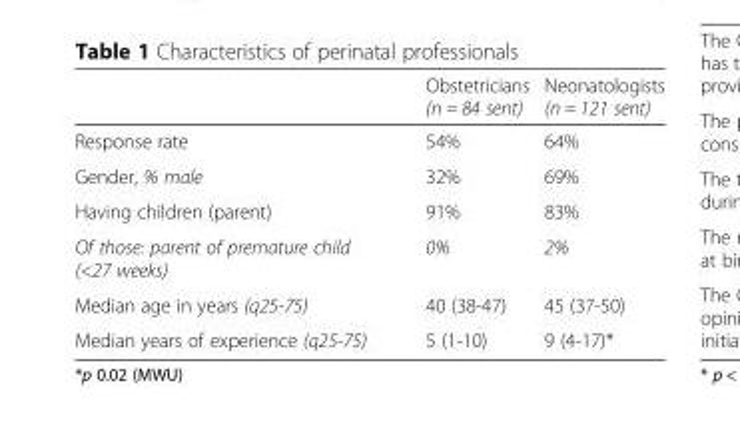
<table><thead><tr><td></td><td>Obstetricians (n = 84 sent)</td><td>Neonatologists (n = 121 sent)</td></tr></thead><tbody><tr><td>Response rate</td><td>54%</td><td>64%</td></tr><tr><td>Gender, % male</td><td>32%</td><td>69%</td></tr><tr><td>Having children (parent)</td><td>91%</td><td>83%</td></tr><tr><td>Of those: parent of premature child (&lt;27 weeks)</td><td>0%</td><td>2%</td></tr><tr><td>Median age in years (q25-75)</td><td>40 (38-47)</td><td>45 (37-50)</td></tr><tr><td>Median years of experience (q25-75)</td><td>5 (1-10)</td><td>9 (4-17)*</td></tr></tbody></table>